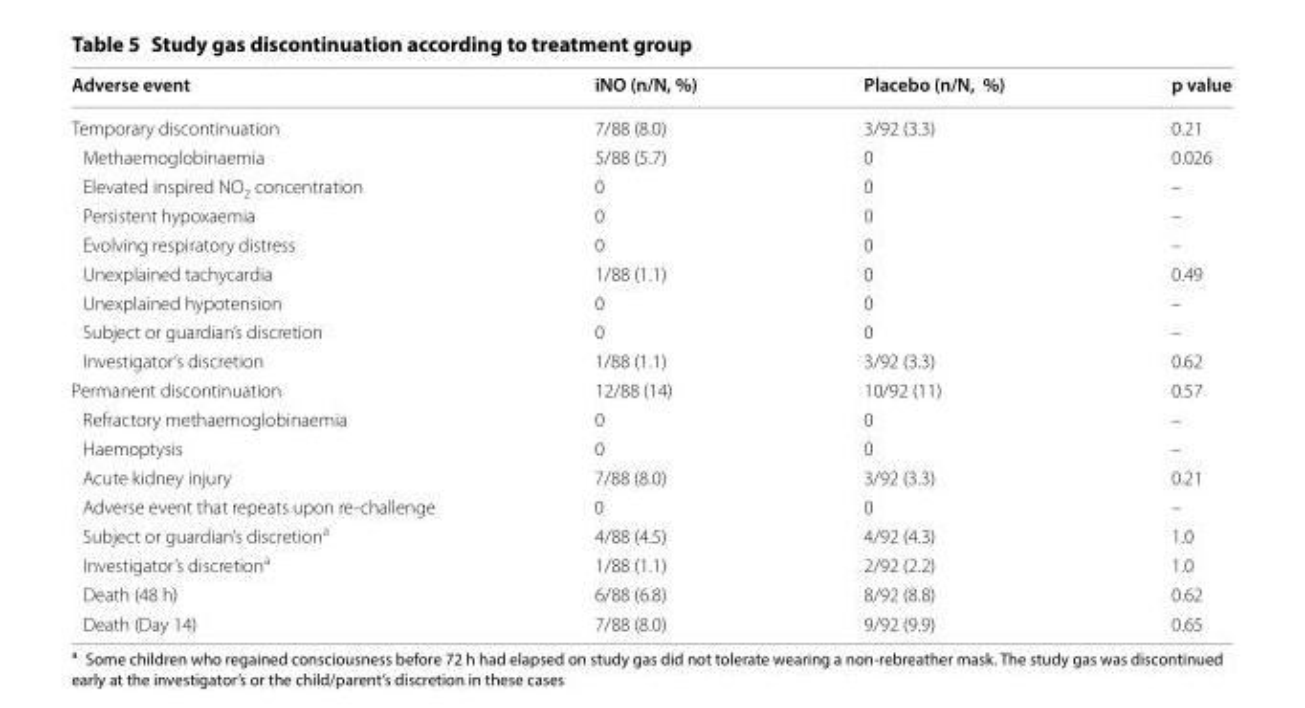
<table><thead><tr><td>Adverse event</td><td>iNO (n/N, %)</td><td>Placebo (n/N, %)</td><td>p value</td></tr></thead><tbody><tr><td>Temporary discontinuation</td><td>7/88 (8.0)</td><td>3/92 (3.3)</td><td>0.21</td></tr><tr><td>Methaemoglobinaemia</td><td>5/88 (5.7)</td><td>0</td><td>0.026</td></tr><tr><td>Elevated inspired NO<sub>2</sub> concentration</td><td>0</td><td>0</td><td>–</td></tr><tr><td>Persistent hypoxaemia</td><td>0</td><td>0</td><td>–</td></tr><tr><td>Evolving respiratory distress</td><td>0</td><td>0</td><td>–</td></tr><tr><td>Unexplained tachycardia</td><td>1/88 (1.1)</td><td>0</td><td>0.49</td></tr><tr><td>Unexplained hypotension</td><td>0</td><td>0</td><td>–</td></tr><tr><td>Subject or guardian’s discretion</td><td>0</td><td>0</td><td>–</td></tr><tr><td>Investigator’s discretion</td><td>1/88 (1.1)</td><td>3/92 (3.3)</td><td>0.62</td></tr><tr><td>Permanent discontinuation</td><td>12/88 (14)</td><td>10/92 (11)</td><td>0.57</td></tr><tr><td>Refractory methaemoglobinaemia</td><td>0</td><td>0</td><td>–</td></tr><tr><td>Haemoptysis</td><td>0</td><td>0</td><td>–</td></tr><tr><td>Acute kidney injury</td><td>7/88 (8.0)</td><td>3/92 (3.3)</td><td>0.21</td></tr><tr><td>Adverse event that repeats upon re-challenge</td><td>0</td><td>0</td><td>–</td></tr><tr><td>Subject or guardian’s discretion<sup>a</sup></td><td>4/88 (4.5)</td><td>4/92 (4.3)</td><td>1.0</td></tr><tr><td>Investigator’s discretion<sup>a</sup></td><td>1/88 (1.1)</td><td>2/92 (2.2)</td><td>1.0</td></tr><tr><td>Death (48 h)</td><td>6/88 (6.8)</td><td>8/92 (8.8)</td><td>0.62</td></tr><tr><td>Death (Day 14)</td><td>7/88 (8.0)</td><td>9/92 (9.9)</td><td>0.65</td></tr></tbody></table>